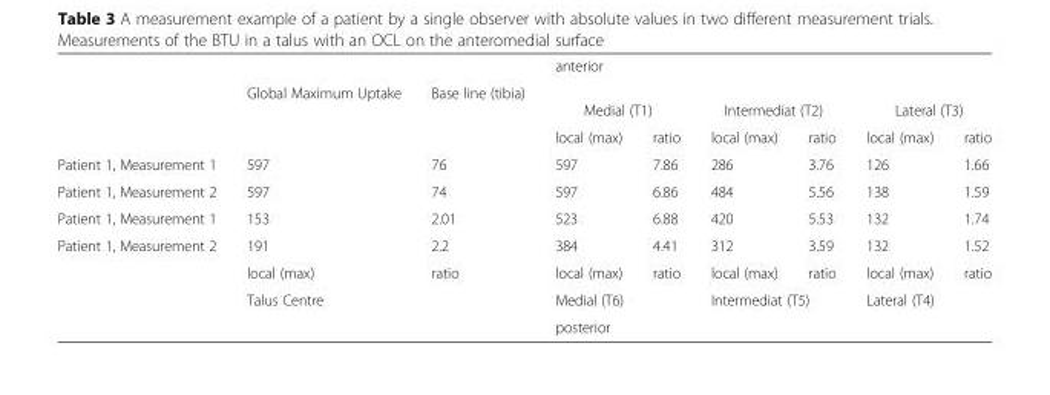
<table><thead><tr><td rowspan="3"></td><td rowspan="3">Global Maximum Uptake</td><td rowspan="3">Base line (tibia)</td><td colspan="6">anterior</td></tr><tr><td colspan="2">Medial (T1)</td><td colspan="2">Intermediat (T2)</td><td colspan="2">Lateral (T3)</td></tr><tr><td>local (max)</td><td>ratio</td><td>local (max)</td><td>ratio</td><td>local (max)</td><td>ratio</td></tr></thead><tbody><tr><td>Patient 1, Measurement 1</td><td>597</td><td>76</td><td>597</td><td>7.86</td><td>286</td><td>3.76</td><td>126</td><td>1.66</td></tr><tr><td>Patient 1, Measurement 2</td><td>597</td><td>74</td><td>597</td><td>6.86</td><td>484</td><td>5.56</td><td>138</td><td>1.59</td></tr><tr><td>Patient 1, Measurement 1</td><td>153</td><td>2.01</td><td>523</td><td>6.88</td><td>420</td><td>5.53</td><td>132</td><td>1.74</td></tr><tr><td rowspan="3">Patient 1, Measurement 2</td><td>191</td><td>2.2</td><td>384</td><td>4.41</td><td>312</td><td>3.59</td><td>132</td><td>1.52</td></tr><tr><td>local (max)</td><td>ratio</td><td>local (max)</td><td>ratio</td><td>local (max)</td><td>ratio</td><td>local (max)</td><td>ratio</td></tr><tr><td colspan="2">Talus Centre</td><td colspan="2">Medial (T6)</td><td colspan="2">Intermediat (T5)</td><td colspan="2">Lateral (T4)</td></tr><tr><td colspan="3"></td><td colspan="6">posterior</td></tr></tbody></table>